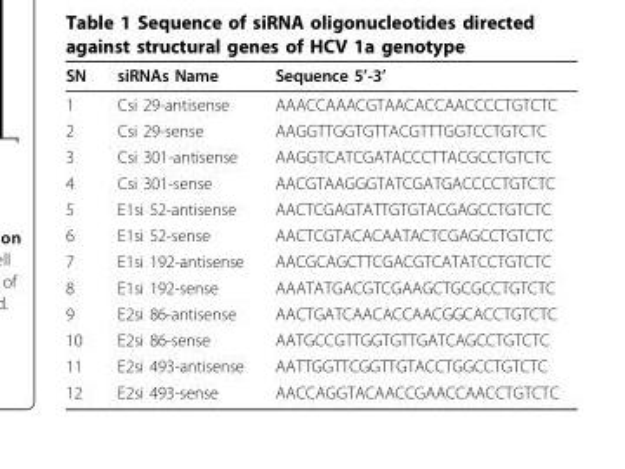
<table><thead><tr><td>SN</td><td>siRNAs Name</td><td>Sequence 5’-3’</td></tr></thead><tbody><tr><td>1</td><td>Csi 29-antisense</td><td>AAACCAAACGTAACACCAACCCCTGTCTC</td></tr><tr><td>2</td><td>Csi 29-sense</td><td>AAGGTTGGTGTTACGTTTGGTCCTGTCTC</td></tr><tr><td>3</td><td>Csi 301-antisense</td><td>AAGGTCATCGATACCCTTACGCCTGTCTC</td></tr><tr><td>4</td><td>Csi 301-sense</td><td>AACGTAAGGGTATCGATGACCCCTGTCTC</td></tr><tr><td>5</td><td>E1si 52-antisense</td><td>AACTCGAGTATTGTGTACGAGCCTGTCTC</td></tr><tr><td>6</td><td>E1si 52-sense</td><td>AACTCGTACACAATACTCGAGCCTGTCTC</td></tr><tr><td>7</td><td>E1si 192-antisense</td><td>AACGCAGCTTCGACGTCATATCCTGTCTC</td></tr><tr><td>8</td><td>E1si 192-sense</td><td>AAATATGACGTCGAAGCTGCGCCTGTCTC</td></tr><tr><td>9</td><td>E2si 86-antisense</td><td>AACTGATCAACACCAACGGCACCTGTCTC</td></tr><tr><td>10</td><td>E2si 86-sense</td><td>AATGCCGTTGGTGTTGATCAGCCTGTCTC</td></tr><tr><td>11</td><td>E2si 493-antisense</td><td>AATTGGTTCGGTTGTACCTGGCCTGTCTC</td></tr><tr><td>12</td><td>E2si 493-sense</td><td>AACCAGGTACAACCGAACCAACCTGTCTC</td></tr></tbody></table>